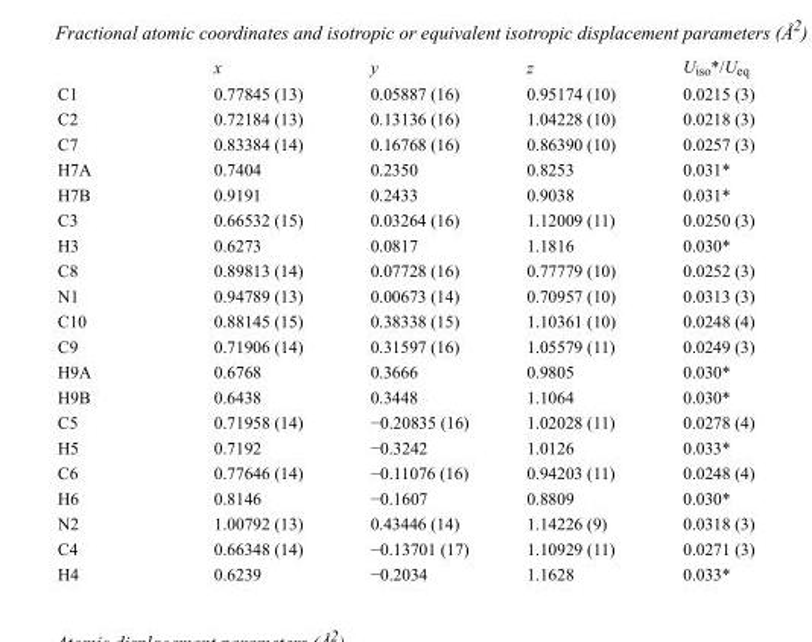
<table><thead><tr><td></td><td>x</td><td>y</td><td>z</td><td>U<sub>iso</sub>*/U<sub>eq</sub></td></tr></thead><tbody><tr><td>C1</td><td>0.77845 (13)</td><td>0.05887 (16)</td><td>0.95174 (10)</td><td>0.0215 (3)</td></tr><tr><td>C2</td><td>0.72184 (13)</td><td>0.13136 (16)</td><td>1.04228 (10)</td><td>0.0218 (3)</td></tr><tr><td>C7</td><td>0.83384 (14)</td><td>0.16768 (16)</td><td>0.86390 (10)</td><td>0.0257 (3)</td></tr><tr><td>H7A</td><td>0.7404</td><td>0.2350</td><td>0.8253</td><td>0.031*</td></tr><tr><td>H7B</td><td>0.9191</td><td>0.2433</td><td>0.9038</td><td>0.031*</td></tr><tr><td>C3</td><td>0.66532 (15)</td><td>0.03264 (16)</td><td>1.12009 (11)</td><td>0.0250 (3)</td></tr><tr><td>H3</td><td>0.6273</td><td>0.0817</td><td>1.1816</td><td>0.030*</td></tr><tr><td>C8</td><td>0.89813 (14)</td><td>0.07728 (16)</td><td>0.77779 (10)</td><td>0.0252 (3)</td></tr><tr><td>N1</td><td>0.94789 (13)</td><td>0.00673 (14)</td><td>0.70957 (10)</td><td>0.0313 (3)</td></tr><tr><td>C10</td><td>0.88145 (15)</td><td>0.38338 (15)</td><td>1.10361 (10)</td><td>0.0248 (4)</td></tr><tr><td>C9</td><td>0.71906 (14)</td><td>0.31597 (16)</td><td>1.05579 (11)</td><td>0.0249 (3)</td></tr><tr><td>H9A</td><td>0.6768</td><td>0.3666</td><td>0.9805</td><td>0.030*</td></tr><tr><td>H9B</td><td>0.6438</td><td>0.3448</td><td>1.1064</td><td>0.030*</td></tr><tr><td>C5</td><td>0.71958 (14)</td><td>−0.20835 (16)</td><td>1.02028 (11)</td><td>0.0278 (4)</td></tr><tr><td>H5</td><td>0.7192</td><td>−0.3242</td><td>1.0126</td><td>0.033*</td></tr><tr><td>C6</td><td>0.77646 (14)</td><td>−0.11076 (16)</td><td>0.94203 (11)</td><td>0.0248 (4)</td></tr><tr><td>H6</td><td>0.8146</td><td>−0.1607</td><td>0.8809</td><td>0.030*</td></tr><tr><td>N2</td><td>1.00792 (13)</td><td>0.43446 (14)</td><td>1.14226 (9)</td><td>0.0318 (3)</td></tr><tr><td>C4</td><td>0.66348 (14)</td><td>−0.13701 (17)</td><td>1.10929 (11)</td><td>0.0271 (3)</td></tr><tr><td>H4</td><td>0.6239</td><td>−0.2034</td><td>1.1628</td><td>0.033*</td></tr></tbody></table>